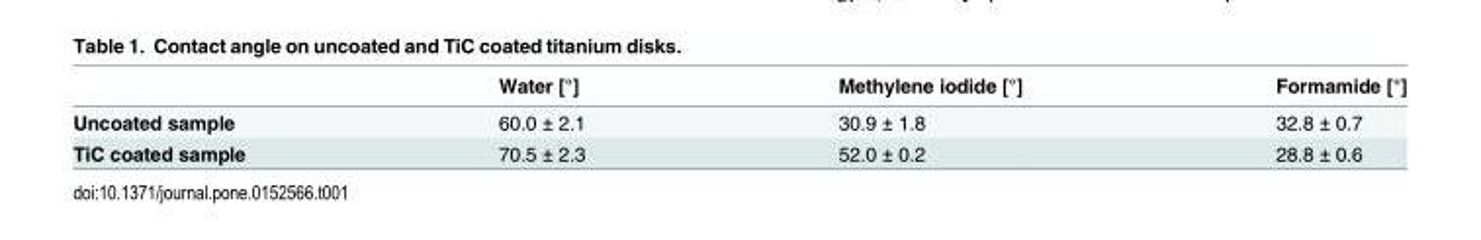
<table><thead><tr><td></td><td>Water [°]</td><td>Methylene iodide [°]</td><td>Formamide [°]</td></tr></thead><tbody><tr><td>Uncoated sample</td><td>60.0 ± 2.1</td><td>30.9 ± 1.8</td><td>32.8 ± 0.7</td></tr><tr><td>TiC coated sample</td><td>70.5 ± 2.3</td><td>52.0 ± 0.2</td><td>28.8 ± 0.6</td></tr></tbody></table>